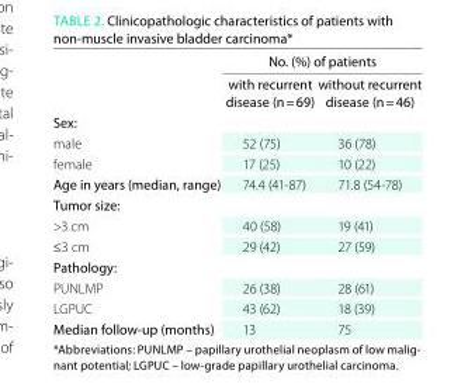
<table><thead><tr><td rowspan="2"></td><td colspan="2">No. (%) of patients</td></tr><tr><td>with recurrent disease (n = 69)</td><td>without recurrent disease (n = 46)</td></tr></thead><tbody><tr><td colspan="3">sex:</td></tr><tr><td>male</td><td>52 (75)</td><td>36 (78)</td></tr><tr><td>female</td><td>17 (25)</td><td>10 (22)</td></tr><tr><td>age in years (median, range)</td><td>74.4 (41-87)</td><td>71.8 (54-78)</td></tr><tr><td colspan="3">tumor size:</td></tr><tr><td>&gt;3 cm</td><td>40 (58)</td><td>19 (41)</td></tr><tr><td>≤3 cm</td><td>29 (42)</td><td>27 (59)</td></tr><tr><td colspan="3">Pathology:</td></tr><tr><td>PUNLMP</td><td>26 (38)</td><td>28 (61)</td></tr><tr><td>LGPUC</td><td>43 (62)</td><td>18 (39)</td></tr><tr><td>median follow-up (months)</td><td>13</td><td>75</td></tr></tbody></table>